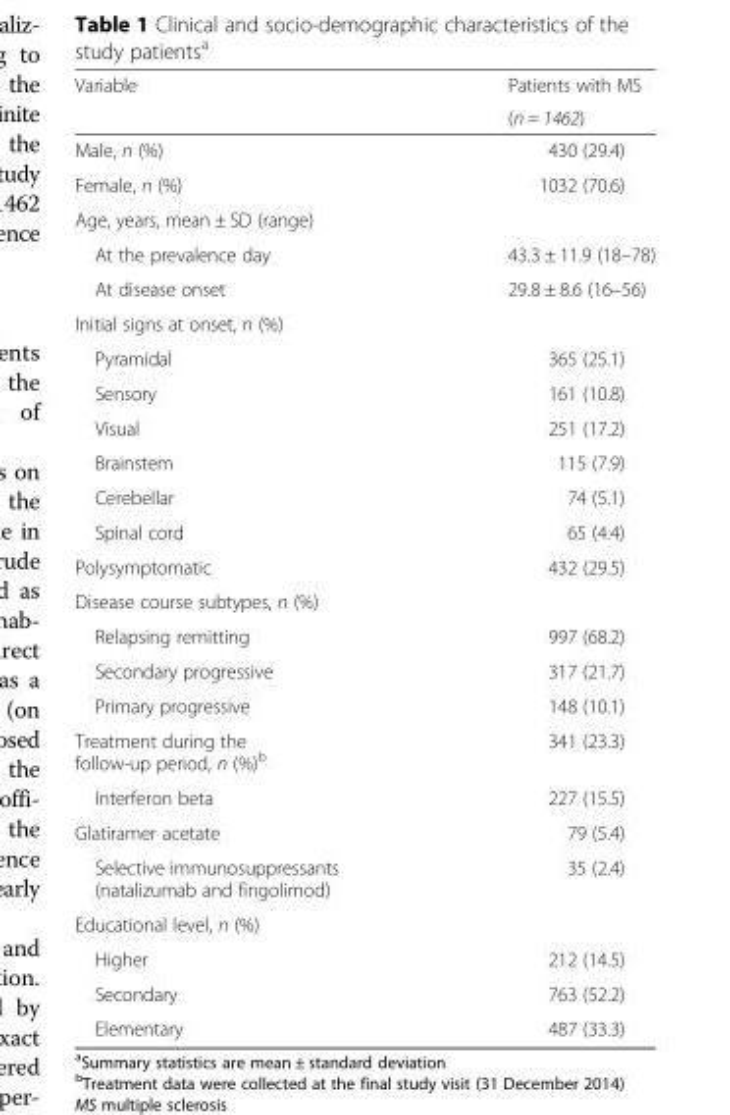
<table><thead><tr><td rowspan="2">Variable</td><td rowspan="2">Patients with MS (n = 1462)</td></tr><tr></tr></thead><tbody><tr><td>Male, n (%)</td><td>430 (29.4)</td></tr><tr><td>Female, n (%)</td><td>1032 (70.6)</td></tr><tr><td colspan="2">Age, years, mean ± SD (range)</td></tr><tr><td>At the prevalence day</td><td>43.3 ± 11.9 (18–78)</td></tr><tr><td>At disease onset</td><td>29.8 ± 8.6 (16–56)</td></tr><tr><td colspan="2">Initial signs at onset, n (%)</td></tr><tr><td>Pyramidal</td><td>365 (25.1)</td></tr><tr><td>Sensory</td><td>161 (10.8)</td></tr><tr><td>Visual</td><td>251 (17.2)</td></tr><tr><td>Brainstem</td><td>115 (7.9)</td></tr><tr><td>Cerebellar</td><td>74 (5.1)</td></tr><tr><td>Spinal cord</td><td>65 (4.4)</td></tr><tr><td>Polysymptomatic</td><td>432 (29.5)</td></tr><tr><td colspan="2">Disease course subtypes, n (%)</td></tr><tr><td>Relapsing remitting</td><td>997 (68.2)</td></tr><tr><td>Secondary progressive</td><td>317 (21.7)</td></tr><tr><td>Primary progressive</td><td>148 (10.1)</td></tr><tr><td>Treatment during the follow-up period, n (%)<sup>b</sup></td><td>341 (23.3)</td></tr><tr><td>Interferon beta</td><td>227 (15.5)</td></tr><tr><td>Glatiramer acetate</td><td>79 (5.4)</td></tr><tr><td>Selective immunosuppressants (natalizumab and fingolimod)</td><td>35 (2.4)</td></tr><tr><td colspan="2">Educational level, n (%)</td></tr><tr><td>Higher</td><td>212 (14.5)</td></tr><tr><td>Secondary</td><td>763 (52.2)</td></tr><tr><td>Elementary</td><td>487 (33.3)</td></tr></tbody></table>